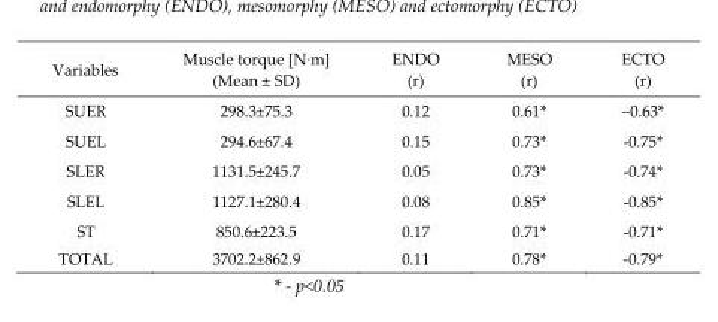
<table><thead><tr><td>Variables</td><td>Muscle torque [N·m] (Mean ± SD)</td><td>ENDO (r)</td><td>MESO (r)</td><td>ECTO (r)</td></tr></thead><tbody><tr><td>SUER</td><td>298.3±75.3</td><td>0.12</td><td>0.61*</td><td>–0.63*</td></tr><tr><td>SUEL</td><td>294.6±67.4</td><td>0.15</td><td>0.73*</td><td>-0.75*</td></tr><tr><td>SLER</td><td>1131.5±245.7</td><td>0.05</td><td>0.73*</td><td>-0.74*</td></tr><tr><td>SLEL</td><td>1127.1±280.4</td><td>0.08</td><td>0.85*</td><td>-0.85*</td></tr><tr><td>ST</td><td>850.6±223.5</td><td>0.17</td><td>0.71*</td><td>-0.71*</td></tr><tr><td>TOTAL</td><td>3702.2±862.9</td><td>0.11</td><td>0.78*</td><td>-0.79*</td></tr></tbody></table>